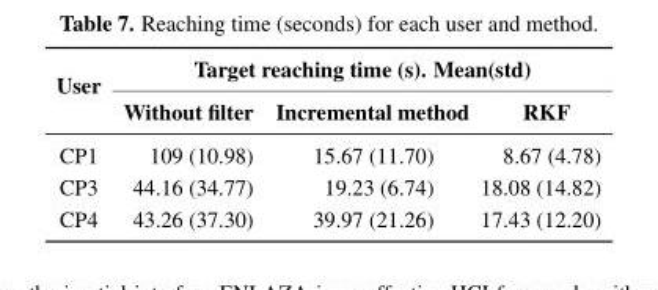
<table><thead><tr><td rowspan="2">User</td><td colspan="3">Target reaching time (s). Mean(std)</td></tr><tr><td>Without filter</td><td>Incremental method</td><td>RKF</td></tr></thead><tbody><tr><td>CP1</td><td>109 (10.98)</td><td>15.67 (11.70)</td><td>8.67 (4.78)</td></tr><tr><td>CP3</td><td>44.16 (34.77)</td><td>19.23 (6.74)</td><td>18.08 (14.82)</td></tr><tr><td>CP4</td><td>43.26 (37.30)</td><td>39.97 (21.26)</td><td>17.43 (12.20)</td></tr></tbody></table>